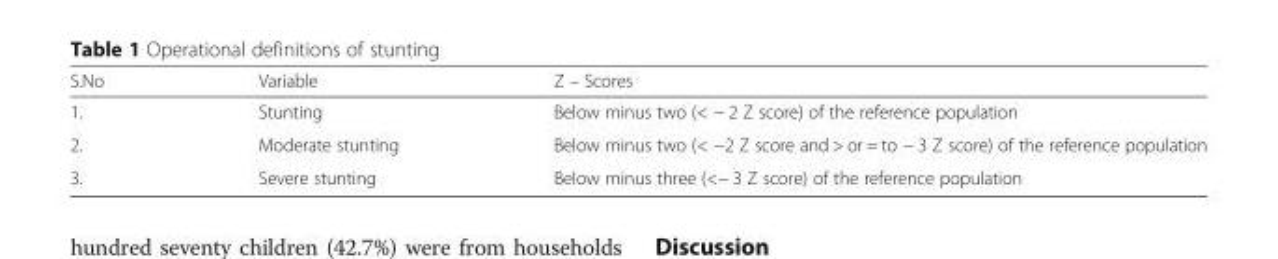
<table><thead><tr><td>S.No</td><td>Variable</td><td>Z – Scores</td></tr></thead><tbody><tr><td>1.</td><td>Stunting</td><td>Below minus two (&lt; − 2 Z score) of the reference population</td></tr><tr><td>2.</td><td>Moderate stunting</td><td>Below minus two (&lt; −2 Z score and &gt; or = to − 3 Z score) of the reference population</td></tr><tr><td>3.</td><td>Severe stunting</td><td>Below minus three (&lt;− 3 Z score) of the reference population</td></tr></tbody></table>